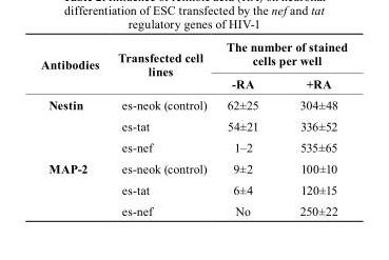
<table><thead><tr><td rowspan="2">Antibodies</td><td rowspan="2">transfected cell lines</td><td colspan="2">the number of stained cells per well</td></tr><tr><td>-RA</td><td>+rA</td></tr></thead><tbody><tr><td rowspan="3">nestin</td><td>es-neok (control)</td><td>62±25</td><td>304±48</td></tr><tr><td>es-tat</td><td>54±21</td><td>336±52</td></tr><tr><td>es-nef</td><td>1–2</td><td>535±65</td></tr><tr><td rowspan="3">MAP-2</td><td>es-neok (control)</td><td>9±2</td><td>100±10</td></tr><tr><td>es-tat</td><td>6±4</td><td>120±15</td></tr><tr><td>es-nef</td><td>No</td><td>250±22</td></tr></tbody></table>